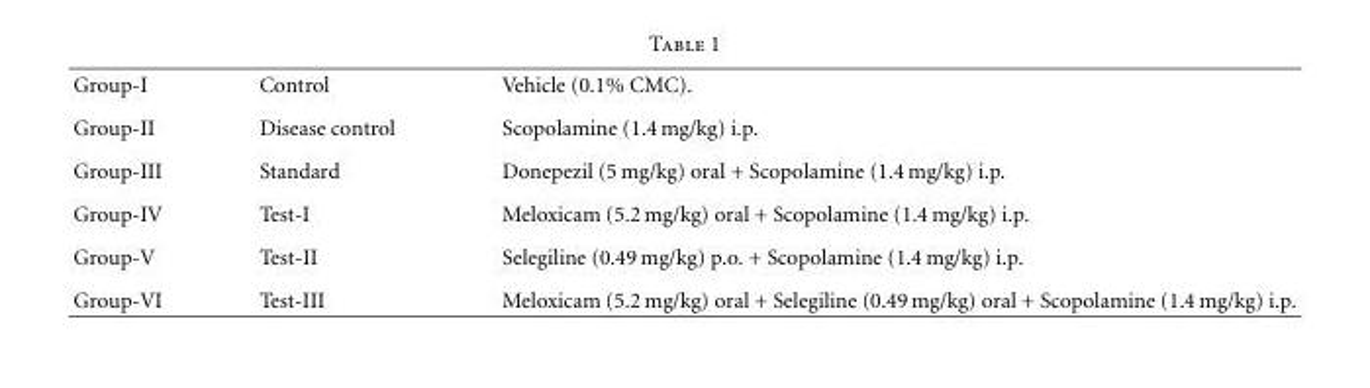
<table><tbody><tr><td>Group-I</td><td>Control</td><td>Vehicle (0.1% CMC).</td></tr><tr><td>Group-II</td><td>Disease control</td><td>Scopolamine (1.4 mg/kg) i.p.</td></tr><tr><td>Group-III</td><td>Standard</td><td>Donepezil (5 mg/kg) oral + Scopolamine (1.4 mg/kg) i.p.</td></tr><tr><td>Group-IV</td><td>Test-I</td><td>Meloxicam (5.2 mg/kg) oral + Scopolamine (1.4 mg/kg) i.p.</td></tr><tr><td>Group-V</td><td>Test-II</td><td>Selegiline (0.49 mg/kg) p.o. + Scopolamine (1.4 mg/kg) i.p.</td></tr><tr><td>Group-VI</td><td>Test-III</td><td>Meloxicam (5.2 mg/kg) oral + Selegiline (0.49 mg/kg) oral + Scopolamine (1.4 mg/kg) i.p.</td></tr></tbody></table>